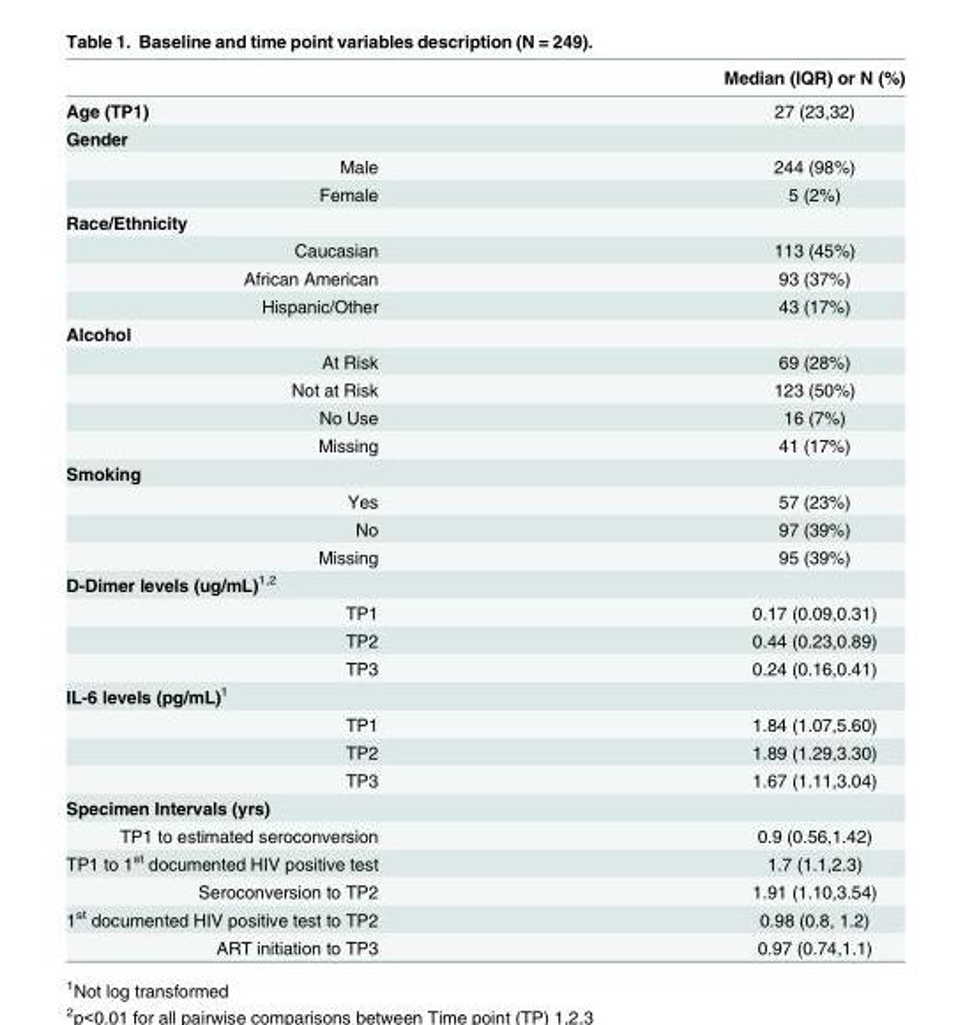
<table><thead><tr><td></td><td>Median (IQR) or N (%)</td></tr></thead><tbody><tr><td>Age (TP1)</td><td>27 (23,32)</td></tr><tr><td colspan="2">Gender</td></tr><tr><td>Male</td><td>244 (98%)</td></tr><tr><td>Female</td><td>5 (2%)</td></tr><tr><td colspan="2">Race/Ethnicity</td></tr><tr><td>Caucasian</td><td>113 (45%)</td></tr><tr><td>African American</td><td>93 (37%)</td></tr><tr><td>Hispanic/Other</td><td>43 (17%)</td></tr><tr><td colspan="2">Alcohol</td></tr><tr><td>At Risk</td><td>69 (28%)</td></tr><tr><td>Not at Risk</td><td>123 (50%)</td></tr><tr><td>No Use</td><td>16 (7%)</td></tr><tr><td>Missing</td><td>41 (17%)</td></tr><tr><td colspan="2">Smoking</td></tr><tr><td>Yes</td><td>57 (23%)</td></tr><tr><td>No</td><td>97 (39%)</td></tr><tr><td>Missing</td><td>95 (39%)</td></tr><tr><td colspan="2">D-Dimer levels (ug/mL)<sup>1,2</sup></td></tr><tr><td>TP1</td><td>0.17 (0.09,0.31)</td></tr><tr><td>TP2</td><td>0.44 (0.23,0.89)</td></tr><tr><td>TP3</td><td>0.24 (0.16,0.41)</td></tr><tr><td colspan="2">IL-6 levels (pg/mL)<sup>1</sup></td></tr><tr><td>TP1</td><td>1.84 (1.07,5.60)</td></tr><tr><td>TP2</td><td>1.89 (1.29,3.30)</td></tr><tr><td>TP3</td><td>1.67 (1.11,3.04)</td></tr><tr><td colspan="2">Specimen Intervals (yrs)</td></tr><tr><td>TP1 to estimated seroconversion</td><td>0.9 (0.56,1.42)</td></tr><tr><td>TP1 to 1<sup>st</sup> documented HIV positive test</td><td>1.7 (1.1,2.3)</td></tr><tr><td>Seroconversion to TP2</td><td>1.91 (1.10,3.54)</td></tr><tr><td>1<sup>st</sup> documented HIV positive test to TP2</td><td>0.98 (0.8, 1.2)</td></tr><tr><td>ART initiation to TP3</td><td>0.97 (0.74,1.1)</td></tr></tbody></table>